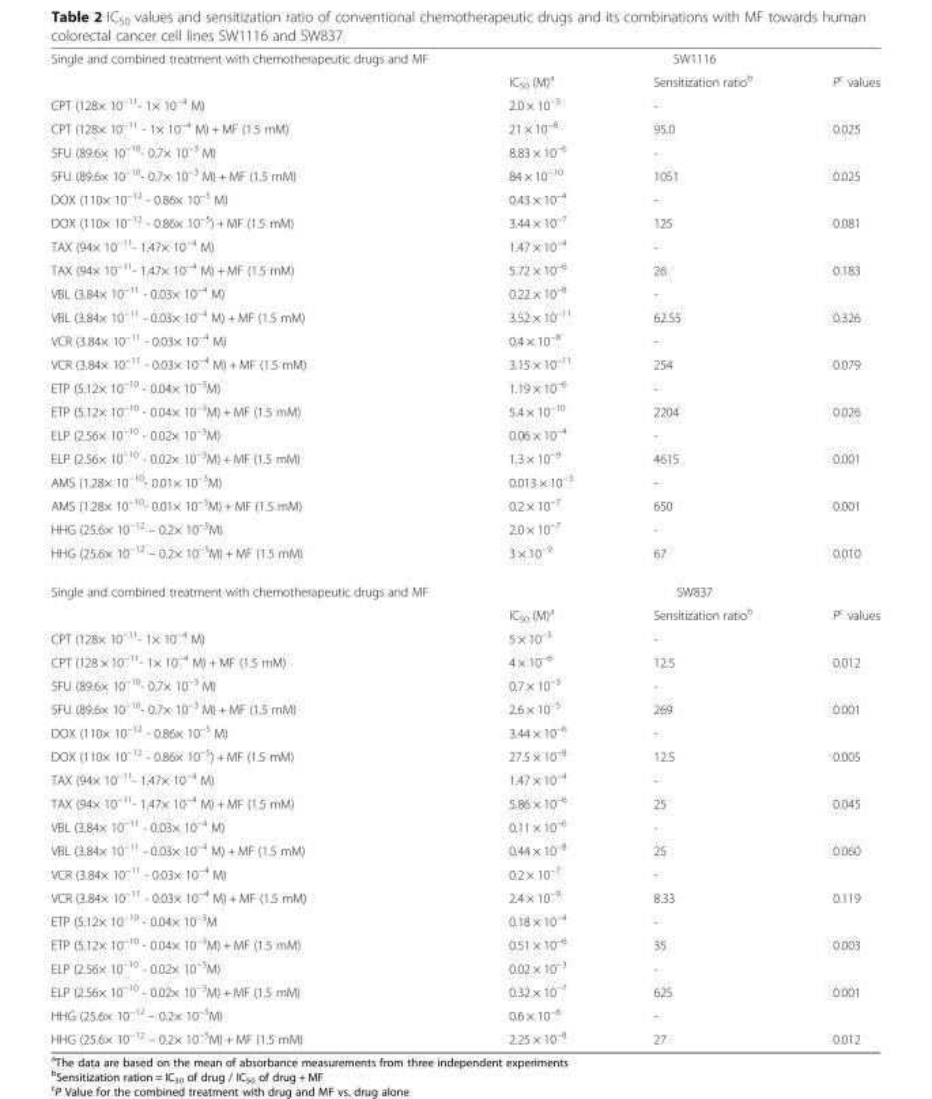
<table><tbody><tr><td rowspan="2">Single and combined treatment with chemotherapeutic drugs and MF</td><td colspan="3">SW1116</td></tr><tr><td>IC<sub>50</sub> (M)<sup>a</sup></td><td>Sensitization ratio<sup>b</sup></td><td>P<sup>c</sup> values</td></tr><tr><td>CPT (128× 10<sup>−11</sup>- 1× 10<sup>−4</sup> M)</td><td>2.0 × 10<sup>−5</sup></td><td>-</td><td></td></tr><tr><td>CPT (128× 10<sup>−11</sup> - 1× 10<sup>−4</sup> M) + MF (1.5 mM)</td><td>21 × 10<sup>−8</sup></td><td>95.0</td><td>0.025</td></tr><tr><td>5FU (89.6× 10<sup>−10</sup>- 0.7× 10<sup>−3</sup> M)</td><td>8.83 × 10<sup>−6</sup></td><td>-</td><td></td></tr><tr><td>5FU (89.6× 10<sup>−10</sup>- 0.7× 10<sup>−3</sup> M) + MF (1.5 mM)</td><td>84 × 10<sup>−10</sup></td><td>1051</td><td>0.025</td></tr><tr><td>DOX (110× 10<sup>−12</sup> - 0.86× 10<sup>−5</sup> M)</td><td>0.43 × 10<sup>−4</sup></td><td>-</td><td></td></tr><tr><td>DOX (110× 10<sup>−12</sup> - 0.86× 10<sup>−5</sup>) + MF (1.5 mM)</td><td>3.44 × 10<sup>−7</sup></td><td>125</td><td>0.081</td></tr><tr><td>TAX (94× 10<sup>−11</sup>- 1.47× 10<sup>−4</sup> M)</td><td>1.47 × 10<sup>−4</sup></td><td>-</td><td></td></tr><tr><td>TAX (94× 10<sup>−11</sup>- 1.47× 10<sup>−4</sup> M) + MF (1.5 mM)</td><td>5.72 × 10<sup>−6</sup></td><td>26</td><td>0.183</td></tr><tr><td>VBL (3.84× 10<sup>−11</sup> - 0.03× 10<sup>−4</sup> M)</td><td>0.22 × 10<sup>−8</sup></td><td>-</td><td></td></tr><tr><td>VBL (3.84× 10<sup>−11</sup> - 0.03× 10<sup>−4</sup> M) + MF (1.5 mM)</td><td>3.52 × 10<sup>−11</sup></td><td>62.55</td><td>0.326</td></tr><tr><td>VCR (3.84× 10<sup>−11</sup> - 0.03× 10<sup>−4</sup> M)</td><td>0.4 × 10<sup>−8</sup></td><td>-</td><td></td></tr><tr><td>VCR (3.84× 10<sup>−11</sup> - 0.03× 10<sup>−4</sup> M) + MF (1.5 mM)</td><td>3.15 × 10<sup>−11</sup></td><td>254</td><td>0.079</td></tr><tr><td>ETP (5.12× 10<sup>−10</sup> - 0.04× 10<sup>−3</sup>M)</td><td>1.19 × 10<sup>−6</sup></td><td>-</td><td></td></tr><tr><td>ETP (5.12× 10<sup>−10</sup> - 0.04× 10<sup>−3</sup>M) + MF (1.5 mM)</td><td>5.4 × 10<sup>−10</sup></td><td>2204</td><td>0.026</td></tr><tr><td>ELP (2.56× 10<sup>−10</sup> - 0.02× 10<sup>−3</sup>M)</td><td>0.06 × 10<sup>−4</sup></td><td>-</td><td></td></tr><tr><td>ELP (2.56× 10<sup>−10</sup> - 0.02× 10<sup>−3</sup>M) + MF (1.5 mM)</td><td>1.3 × 10<sup>−9</sup></td><td>4615</td><td>0.001</td></tr><tr><td>AMS (1.28× 10<sup>−10</sup>- 0.01× 10<sup>−3</sup>M)</td><td>0.013 × 10<sup>−3</sup></td><td>-</td><td></td></tr><tr><td>AMS (1.28× 10<sup>−10</sup>- 0.01× 10<sup>−3</sup>M) + MF (1.5 mM)</td><td>0.2 × 10<sup>−7</sup></td><td>650</td><td>0.001</td></tr><tr><td>HHG (25.6× 10<sup>−12</sup> – 0.2× 10<sup>−5</sup>M)</td><td>2.0 × 10<sup>−7</sup></td><td>-</td><td></td></tr><tr><td>HHG (25.6× 10<sup>−12</sup> – 0.2× 10<sup>−5</sup>M) + MF (1.5 mM)</td><td>3 × 10<sup>−9</sup></td><td>67</td><td>0.010</td></tr><tr><td rowspan="2">Single and combined treatment with chemotherapeutic drugs and MF</td><td colspan="3">SW837</td></tr><tr><td>IC<sub>50</sub> (M)<sup>a</sup></td><td>Sensitization ratio<sup>b</sup></td><td>P<sup>c</sup> values</td></tr><tr><td>CPT (128× 10<sup>−11</sup>- 1× 10<sup>−4</sup> M)</td><td>5 × 10<sup>−5</sup></td><td>-</td><td></td></tr><tr><td>CPT (128 × 10<sup>−11</sup>- 1× 10<sup>−4</sup> M) + MF (1.5 mM)</td><td>4 × 10<sup>−6</sup></td><td>12.5</td><td>0.012</td></tr><tr><td>5FU (89.6× 10<sup>−10</sup>- 0.7× 10<sup>−3</sup> M)</td><td>0.7 × 10<sup>−3</sup></td><td>-</td><td></td></tr><tr><td>5FU (89.6× 10<sup>−10</sup>- 0.7× 10<sup>−3</sup> M) + MF (1.5 mM)</td><td>2.6 × 10<sup>−5</sup></td><td>269</td><td>0.001</td></tr><tr><td>DOX (110× 10<sup>−12</sup> - 0.86× 10<sup>−5</sup> M)</td><td>3.44 × 10<sup>−6</sup></td><td>-</td><td></td></tr><tr><td>DOX (110× 10<sup>−12</sup> - 0.86× 10<sup>−5</sup>) + MF (1.5 mM)</td><td>27.5 × 10<sup>−8</sup></td><td>12.5</td><td>0.005</td></tr><tr><td>TAX (94× 10<sup>−11</sup>- 1.47× 10<sup>−4</sup> M)</td><td>1.47 × 10<sup>−4</sup></td><td>-</td><td></td></tr><tr><td>TAX (94× 10<sup>−11</sup>- 1.47× 10<sup>−4</sup> M) + MF (1.5 mM)</td><td>5.86 × 10<sup>−6</sup></td><td>25</td><td>0.045</td></tr><tr><td>VBL (3.84× 10<sup>−11</sup> - 0.03× 10<sup>−4</sup> M)</td><td>0.11 × 10<sup>−6</sup></td><td>-</td><td></td></tr><tr><td>VBL (3.84× 10<sup>−11</sup> - 0.03× 10<sup>−4</sup> M) + MF (1.5 mM)</td><td>0.44 × 10<sup>−8</sup></td><td>25</td><td>0.060</td></tr><tr><td>VCR (3.84× 10<sup>−11</sup> - 0.03× 10<sup>−4</sup> M)</td><td>0.2 × 10<sup>−7</sup></td><td>-</td><td></td></tr><tr><td>VCR (3.84× 10<sup>−11</sup> - 0.03× 10<sup>−4</sup> M) + MF (1.5 mM)</td><td>2.4 × 10<sup>−9</sup></td><td>8.33</td><td>0.119</td></tr><tr><td>ETP (5.12× 10<sup>−10</sup> - 0.04× 10<sup>−3</sup>M</td><td>0.18 × 10<sup>−4</sup></td><td>-</td><td></td></tr><tr><td>ETP (5.12× 10<sup>−10</sup> - 0.04× 10<sup>−3</sup>M) + MF (1.5 mM)</td><td>0.51 × 10<sup>−6</sup></td><td>35</td><td>0.003</td></tr><tr><td>ELP (2.56× 10<sup>−10</sup> - 0.02× 10<sup>−3</sup>M)</td><td>0.02 × 10<sup>−3</sup></td><td>-</td><td></td></tr><tr><td>ELP (2.56× 10<sup>−10</sup> - 0.02× 10<sup>−3</sup>M) + MF (1.5 mM)</td><td>0.32 × 10<sup>−7</sup></td><td>625</td><td>0.001</td></tr><tr><td>HHG (25.6× 10<sup>−12</sup> – 0.2× 10<sup>−5</sup>M)</td><td>0.6 × 10<sup>−6</sup></td><td>-</td><td></td></tr><tr><td>HHG (25.6× 10<sup>−12</sup> – 0.2× 10<sup>−5</sup>M) + MF (1.5 mM)</td><td>2.25 × 10<sup>−8</sup></td><td>27</td><td>0.012</td></tr></tbody></table>